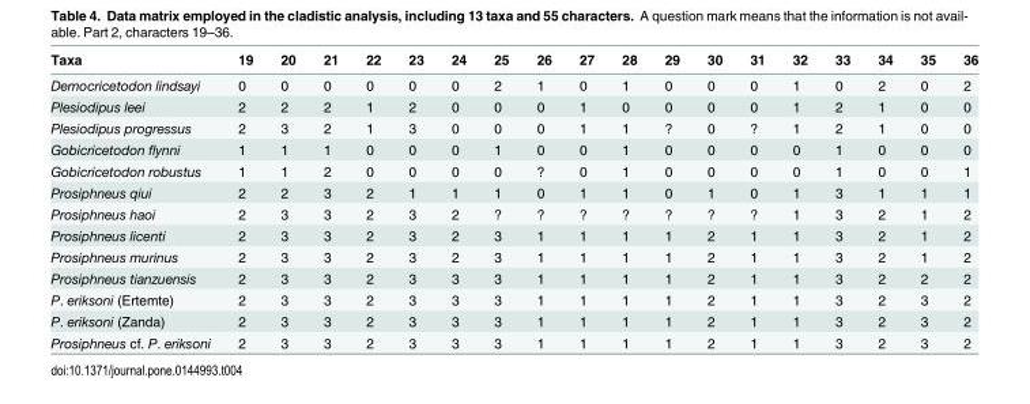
<table><thead><tr><td>Taxa</td><td>19</td><td>20</td><td>21</td><td>22</td><td>23</td><td>24</td><td>25</td><td>26</td><td>27</td><td>28</td><td>29</td><td>30</td><td>31</td><td>32</td><td>33</td><td>34</td><td>35</td><td>36</td></tr></thead><tbody><tr><td>Democricetodon lindsayi</td><td>0</td><td>0</td><td>0</td><td>0</td><td>0</td><td>0</td><td>2</td><td>1</td><td>0</td><td>1</td><td>0</td><td>0</td><td>0</td><td>1</td><td>0</td><td>2</td><td>0</td><td>2</td></tr><tr><td>Plesiodipus leei</td><td>2</td><td>2</td><td>2</td><td>1</td><td>2</td><td>0</td><td>0</td><td>0</td><td>1</td><td>0</td><td>0</td><td>0</td><td>0</td><td>1</td><td>2</td><td>1</td><td>0</td><td>0</td></tr><tr><td>Plesiodipus progressus</td><td>2</td><td>3</td><td>2</td><td>1</td><td>3</td><td>0</td><td>0</td><td>0</td><td>1</td><td>1</td><td>?</td><td>0</td><td>?</td><td>1</td><td>2</td><td>1</td><td>0</td><td>0</td></tr><tr><td>Gobicricetodon flynni</td><td>1</td><td>1</td><td>1</td><td>0</td><td>0</td><td>0</td><td>1</td><td>0</td><td>0</td><td>1</td><td>0</td><td>0</td><td>0</td><td>0</td><td>1</td><td>0</td><td>0</td><td>0</td></tr><tr><td>Gobicricetodon robustus</td><td>1</td><td>1</td><td>2</td><td>0</td><td>0</td><td>0</td><td>0</td><td>?</td><td>0</td><td>1</td><td>0</td><td>0</td><td>0</td><td>0</td><td>1</td><td>0</td><td>0</td><td>1</td></tr><tr><td>Prosiphneus qiui</td><td>2</td><td>2</td><td>3</td><td>2</td><td>1</td><td>1</td><td>1</td><td>0</td><td>1</td><td>1</td><td>0</td><td>1</td><td>0</td><td>1</td><td>3</td><td>1</td><td>1</td><td>1</td></tr><tr><td>Prosiphneus haoi</td><td>2</td><td>3</td><td>3</td><td>2</td><td>3</td><td>2</td><td>?</td><td>?</td><td>?</td><td>?</td><td>?</td><td>?</td><td>?</td><td>1</td><td>3</td><td>2</td><td>1</td><td>2</td></tr><tr><td>Prosiphneus licenti</td><td>2</td><td>3</td><td>3</td><td>2</td><td>3</td><td>2</td><td>3</td><td>1</td><td>1</td><td>1</td><td>1</td><td>2</td><td>1</td><td>1</td><td>3</td><td>2</td><td>1</td><td>2</td></tr><tr><td>Prosiphneus murinus</td><td>2</td><td>3</td><td>3</td><td>2</td><td>3</td><td>2</td><td>3</td><td>1</td><td>1</td><td>1</td><td>1</td><td>2</td><td>1</td><td>1</td><td>3</td><td>2</td><td>1</td><td>2</td></tr><tr><td>Prosiphneus tianzuensis</td><td>2</td><td>3</td><td>3</td><td>2</td><td>3</td><td>3</td><td>3</td><td>1</td><td>1</td><td>1</td><td>1</td><td>2</td><td>1</td><td>1</td><td>3</td><td>2</td><td>2</td><td>2</td></tr><tr><td>P. eriksoni (Ertemte)</td><td>2</td><td>3</td><td>3</td><td>2</td><td>3</td><td>3</td><td>3</td><td>1</td><td>1</td><td>1</td><td>1</td><td>2</td><td>1</td><td>1</td><td>3</td><td>2</td><td>3</td><td>2</td></tr><tr><td>P. eriksoni (Zanda)</td><td>2</td><td>3</td><td>3</td><td>2</td><td>3</td><td>3</td><td>3</td><td>1</td><td>1</td><td>1</td><td>1</td><td>2</td><td>1</td><td>1</td><td>3</td><td>2</td><td>3</td><td>2</td></tr><tr><td>Prosiphneus cf. P. eriksoni</td><td>2</td><td>3</td><td>3</td><td>2</td><td>3</td><td>3</td><td>3</td><td>1</td><td>1</td><td>1</td><td>1</td><td>2</td><td>1</td><td>1</td><td>3</td><td>2</td><td>3</td><td>2</td></tr></tbody></table>